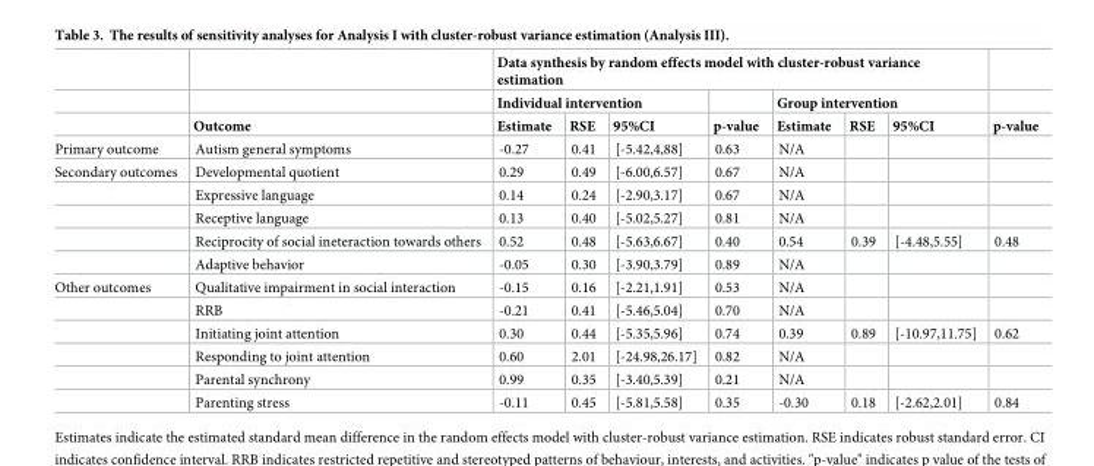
<table><thead><tr><td rowspan="3"></td><td rowspan="3">Outcome</td><td colspan="7">Data synthesis by random effects model with cluster-robust variance estimation</td><td rowspan="3">p-value</td></tr><tr><td colspan="3">Individual intervention</td><td rowspan="2">p-value</td><td colspan="3">Group intervention</td></tr><tr><td>Estimate</td><td>RSE</td><td>95%CI</td><td>Estimate</td><td>RSE</td><td>95%CI</td></tr></thead><tbody><tr><td>Primary outcome</td><td>Autism general symptoms</td><td>-0.27</td><td>0.41</td><td>[-5.42,4,88]</td><td>0.63</td><td>N/A</td><td></td><td></td><td></td></tr><tr><td rowspan="5">Secondary outcomes</td><td>Developmental quotient</td><td>0.29</td><td>0.49</td><td>[-6.00,6.57]</td><td>0.67</td><td>N/A</td><td></td><td></td><td></td></tr><tr><td>Expressive language</td><td>0.14</td><td>0.24</td><td>[-2.90,3.17]</td><td>0.67</td><td>N/A</td><td></td><td></td><td></td></tr><tr><td>Receptive language</td><td>0.13</td><td>0.40</td><td>[-5.02,5.27]</td><td>0.81</td><td>N/A</td><td></td><td></td><td></td></tr><tr><td>Reciprocity of social ineteraction towards others</td><td>0.52</td><td>0.48</td><td>[-5.63,6.67]</td><td>0.40</td><td>0.54</td><td>0.39</td><td>[-4.48,5.55]</td><td>0.48</td></tr><tr><td>Adaptive behavior</td><td>-0.05</td><td>0.30</td><td>[-3.90,3.79]</td><td>0.89</td><td>N/A</td><td></td><td></td><td></td></tr><tr><td rowspan="6">Other outcomes</td><td>Qualitative impairment in social interaction</td><td>-0.15</td><td>0.16</td><td>[-2.21,1.91]</td><td>0.53</td><td>N/A</td><td></td><td></td><td></td></tr><tr><td>RRB</td><td>-0.21</td><td>0.41</td><td>[-5.46,5.04]</td><td>0.70</td><td>N/A</td><td></td><td></td><td></td></tr><tr><td>Initiating joint attention</td><td>0.30</td><td>0.44</td><td>[-5.35,5.96]</td><td>0.74</td><td>0.39</td><td>0.89</td><td>[-10.97,11.75]</td><td>0.62</td></tr><tr><td>Responding to joint attention</td><td>0.60</td><td>2.01</td><td>[-24.98,26.17]</td><td>0.82</td><td>N/A</td><td></td><td></td><td></td></tr><tr><td>Parental synchrony</td><td>0.99</td><td>0.35</td><td>[-3.40,5.39]</td><td>0.21</td><td>N/A</td><td></td><td></td><td></td></tr><tr><td>Parenting stress</td><td>-0.11</td><td>0.45</td><td>[-5.81,5.58]</td><td>0.35</td><td>-0.30</td><td>0.18</td><td>[-2.62,2.01]</td><td>0.84</td></tr></tbody></table>